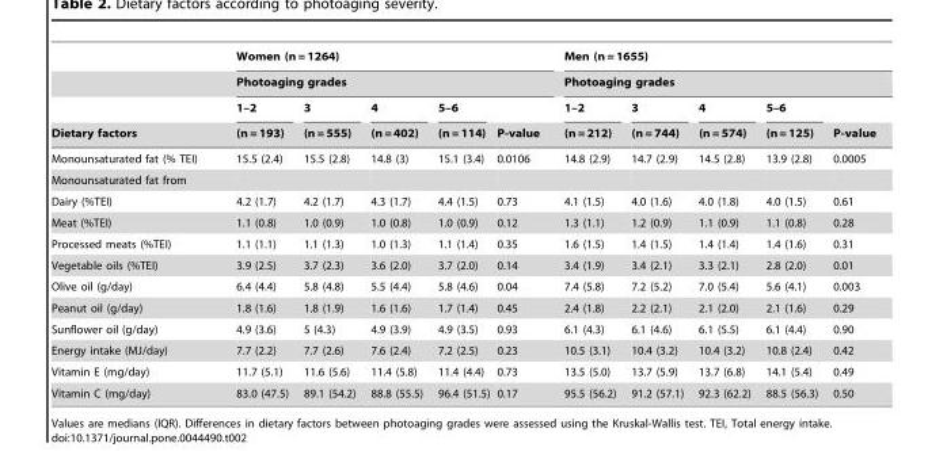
<table><thead><tr><td rowspan="4">Dietary factors</td><td rowspan="2" colspan="5">Women (n = 1264) Photoaging grades</td><td rowspan="2" colspan="5">Men (n = 1655) Photoaging grades</td></tr><tr></tr><tr><td rowspan="2">1–2 (n = 193)</td><td rowspan="2">3 (n = 555)</td><td rowspan="2">4 (n = 402)</td><td rowspan="2">5–6 (n = 114)</td><td rowspan="2">P-value</td><td rowspan="2">1–2 (n = 212)</td><td rowspan="2">3 (n = 744)</td><td rowspan="2">4 (n = 574)</td><td rowspan="2">5–6 (n = 125)</td><td rowspan="2">P-value</td></tr><tr></tr></thead><tbody><tr><td>Monounsaturated fat (% TEI)</td><td>15.5 (2.4)</td><td>15.5 (2.8)</td><td>14.8 (3)</td><td>15.1 (3.4)</td><td>0.0106</td><td>14.8 (2.9)</td><td>14.7 (2.9)</td><td>14.5 (2.8)</td><td>13.9 (2.8)</td><td>0.0005</td></tr><tr><td colspan="11">Monounsaturated fat from</td></tr><tr><td>Dairy (%TEI)</td><td>4.2 (1.7)</td><td>4.2 (1.7)</td><td>4.3 (1.7)</td><td>4.4 (1.5)</td><td>0.73</td><td>4.1 (1.5)</td><td>4.0 (1.6)</td><td>4.0 (1.8)</td><td>4.0 (1.5)</td><td>0.61</td></tr><tr><td>Meat (%TEI)</td><td>1.1 (0.8)</td><td>1.0 (0.9)</td><td>1.0 (0.8)</td><td>1.0 (0.9)</td><td>0.12</td><td>1.3 (1.1)</td><td>1.2 (0.9)</td><td>1.1 (0.9)</td><td>1.1 (0.8)</td><td>0.28</td></tr><tr><td>Processed meats (%TEI)</td><td>1.1 (1.1)</td><td>1.1 (1.3)</td><td>1.0 (1.3)</td><td>1.1 (1.4)</td><td>0.35</td><td>1.6 (1.5)</td><td>1.4 (1.5)</td><td>1.4 (1.4)</td><td>1.4 (1.6)</td><td>0.31</td></tr><tr><td>Vegetable oils (%TEI)</td><td>3.9 (2.5)</td><td>3.7 (2.3)</td><td>3.6 (2.0)</td><td>3.7 (2.0)</td><td>0.14</td><td>3.4 (1.9)</td><td>3.4 (2.1)</td><td>3.3 (2.1)</td><td>2.8 (2.0)</td><td>0.01</td></tr><tr><td>Olive oil (g/day)</td><td>6.4 (4.4)</td><td>5.8 (4.8)</td><td>5.5 (4.4)</td><td>5.8 (4.6)</td><td>0.04</td><td>7.4 (5.8)</td><td>7.2 (5.2)</td><td>7.0 (5.4)</td><td>5.6 (4.1)</td><td>0.003</td></tr><tr><td>Peanut oil (g/day)</td><td>1.8 (1.6)</td><td>1.8 (1.9)</td><td>1.6 (1.6)</td><td>1.7 (1.4)</td><td>0.45</td><td>2.4 (1.8)</td><td>2.2 (2.1)</td><td>2.1 (2.0)</td><td>2.1 (1.6)</td><td>0.29</td></tr><tr><td>Sunflower oil (g/day)</td><td>4.9 (3.6)</td><td>5 (4.3)</td><td>4.9 (3.9)</td><td>4.9 (3.5)</td><td>0.93</td><td>6.1 (4.3)</td><td>6.1 (4.6)</td><td>6.1 (5.5)</td><td>6.1 (4.4)</td><td>0.90</td></tr><tr><td>Energy intake (MJ/day)</td><td>7.7 (2.2)</td><td>7.7 (2.6)</td><td>7.6 (2.4)</td><td>7.2 (2.5)</td><td>0.23</td><td>10.5 (3.1)</td><td>10.4 (3.2)</td><td>10.4 (3.2)</td><td>10.8 (2.4)</td><td>0.42</td></tr><tr><td>Vitamin E (mg/day)</td><td>11.7 (5.1)</td><td>11.6 (5.6)</td><td>11.4 (5.8)</td><td>11.4 (4.4)</td><td>0.73</td><td>13.5 (5.0)</td><td>13.7 (5.9)</td><td>13.7 (6.8)</td><td>14.1 (5.4)</td><td>0.49</td></tr><tr><td>Vitamin C (mg/day)</td><td>83.0 (47.5)</td><td>89.1 (54.2)</td><td>88.8 (55.5)</td><td>96.4 (51.5)</td><td>0.17</td><td>95.5 (56.2)</td><td>91.2 (57.1)</td><td>92.3 (62.2)</td><td>88.5 (56.3)</td><td>0.50</td></tr></tbody></table>